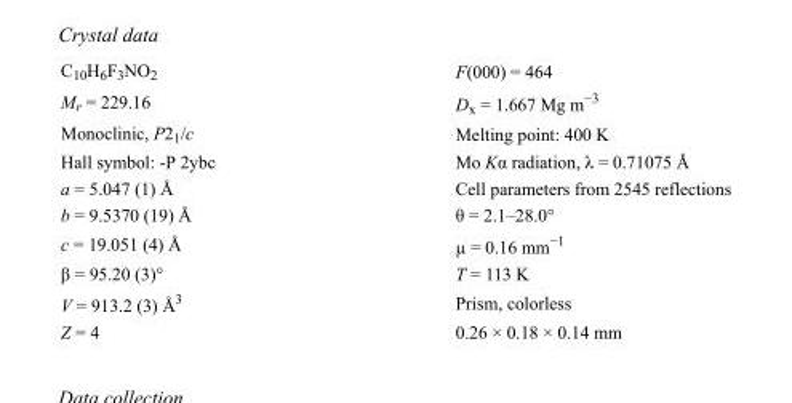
<table><tbody><tr><td>C<sub>10</sub>H<sub>6</sub>F<sub>3</sub>NO<sub>2</sub></td><td>F(000) = 464</td></tr><tr><td>M<sub>r</sub> = 229.16</td><td>D<sub>x</sub> = 1.667 Mg m<sup>−3</sup></td></tr><tr><td>Monoclinic, P2<sub>1</sub>/c</td><td>Melting point: 400 K</td></tr><tr><td>Hall symbol: -P 2ybc</td><td>Mo Kα radiation, λ = 0.71075 Å</td></tr><tr><td>a = 5.047 (1) Å</td><td>Cell parameters from 2545 reflections</td></tr><tr><td>b = 9.5370 (19) Å</td><td>θ = 2.1–28.0°</td></tr><tr><td>c = 19.051 (4) Å</td><td>µ = 0.16 mm<sup>−1</sup></td></tr><tr><td>β = 95.20 (3)°</td><td>T = 113 K</td></tr><tr><td>V = 913.2 (3) Å<sup>3</sup></td><td>Prism, colorless</td></tr><tr><td>Z = 4</td><td>0.26 × 0.18 × 0.14 mm</td></tr></tbody></table>